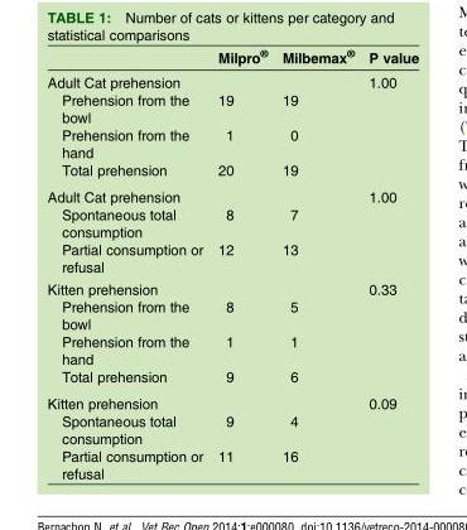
<table><thead><tr><td></td><td>Milpro<sup>®</sup></td><td>Milbemax<sup>®</sup></td><td>P value</td></tr></thead><tbody><tr><td colspan="3">Adult Cat prehension</td><td>1.00</td></tr><tr><td>Prehension from the bowl</td><td>19</td><td>19</td><td></td></tr><tr><td>Prehension from the hand</td><td>1</td><td>0</td><td></td></tr><tr><td>Total prehension</td><td>20</td><td>19</td><td></td></tr><tr><td colspan="3">Adult Cat prehension</td><td>1.00</td></tr><tr><td>Spontaneous total consumption</td><td>8</td><td>7</td><td></td></tr><tr><td>Partial consumption or refusal</td><td>12</td><td>13</td><td></td></tr><tr><td colspan="3">Kitten prehension</td><td>0.33</td></tr><tr><td>Prehension from the bowl</td><td>8</td><td>5</td><td></td></tr><tr><td>Prehension from the hand</td><td>1</td><td>1</td><td></td></tr><tr><td>Total prehension</td><td>9</td><td>6</td><td></td></tr><tr><td colspan="3">Kitten prehension</td><td>0.09</td></tr><tr><td>Spontaneous total consumption</td><td>9</td><td>4</td><td></td></tr><tr><td>Partial consumption or refusal</td><td>11</td><td>16</td><td></td></tr></tbody></table>